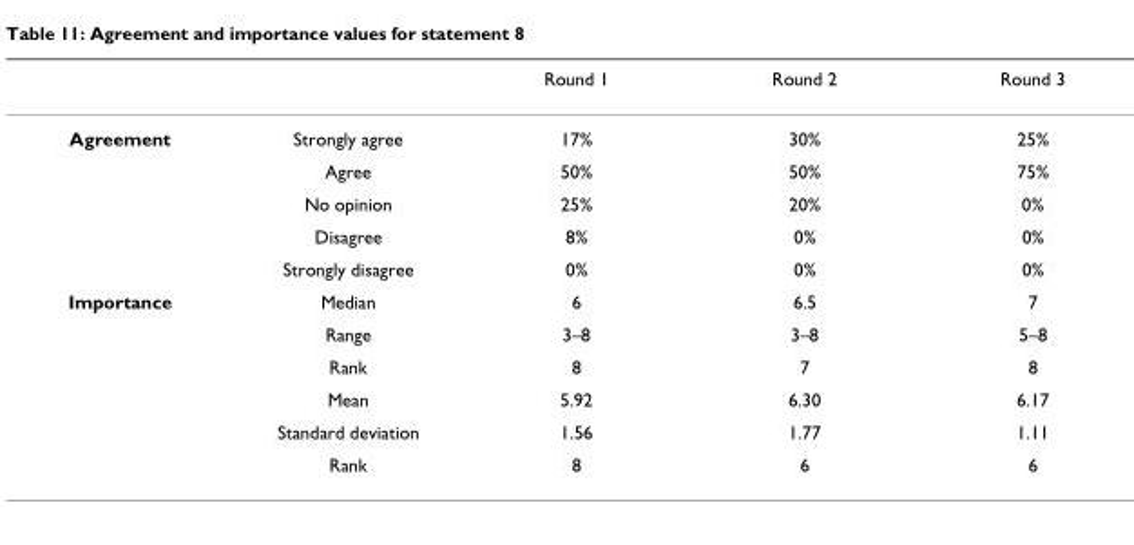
<table><thead><tr><td></td><td></td><td>Round 1</td><td>Round 2</td><td>Round 3</td></tr></thead><tbody><tr><td rowspan="5">Agreement</td><td>Strongly agree</td><td>17%</td><td>30%</td><td>25%</td></tr><tr><td>Agree</td><td>50%</td><td>50%</td><td>75%</td></tr><tr><td>No opinion</td><td>25%</td><td>20%</td><td>0%</td></tr><tr><td>Disagree</td><td>8%</td><td>0%</td><td>0%</td></tr><tr><td>Strongly disagree</td><td>0%</td><td>0%</td><td>0%</td></tr><tr><td rowspan="6">Importance</td><td>Median</td><td>6</td><td>6.5</td><td>7</td></tr><tr><td>Range</td><td>3–8</td><td>3–8</td><td>5–8</td></tr><tr><td>Rank</td><td>8</td><td>7</td><td>8</td></tr><tr><td>Mean</td><td>5.92</td><td>6.30</td><td>6.17</td></tr><tr><td>Standard deviation</td><td>1.56</td><td>1.77</td><td>1.11</td></tr><tr><td>Rank</td><td>8</td><td>6</td><td>6</td></tr></tbody></table>